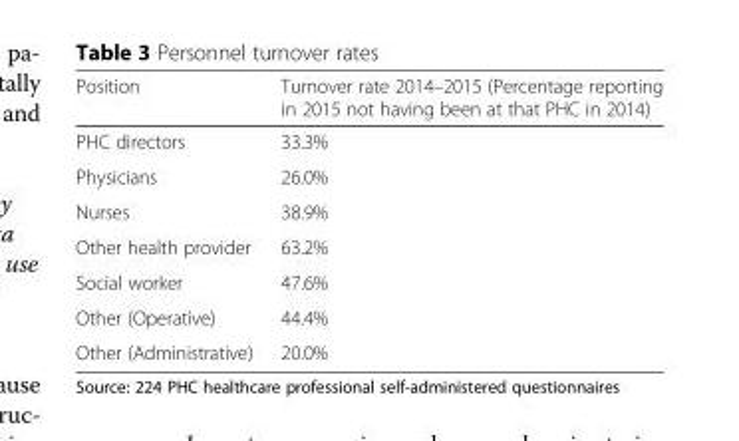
<table><thead><tr><td>Position</td><td>Turnover rate 2014–2015 (Percentage reporting in 2015 not having been at that PHC in 2014)</td></tr></thead><tbody><tr><td>PHC directors</td><td>33.3%</td></tr><tr><td>Physicians</td><td>26.0%</td></tr><tr><td>Nurses</td><td>38.9%</td></tr><tr><td>Other health provider</td><td>63.2%</td></tr><tr><td>Social worker</td><td>47.6%</td></tr><tr><td>Other (Operative)</td><td>44.4%</td></tr><tr><td>Other (Administrative)</td><td>20.0%</td></tr></tbody></table>